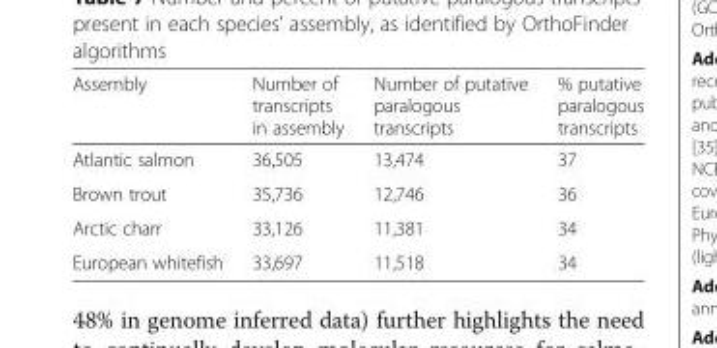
<table><thead><tr><td>Assembly</td><td>Number of transcripts in assembly</td><td>Number of putative paralogous transcripts</td><td>% putative paralogous transcripts</td></tr></thead><tbody><tr><td>Atlantic salmon</td><td>36,505</td><td>13,474</td><td>37</td></tr><tr><td>Brown trout</td><td>35,736</td><td>12,746</td><td>36</td></tr><tr><td>Arctic charr</td><td>33,126</td><td>11,381</td><td>34</td></tr><tr><td>European whitefish</td><td>33,697</td><td>11,518</td><td>34</td></tr></tbody></table>